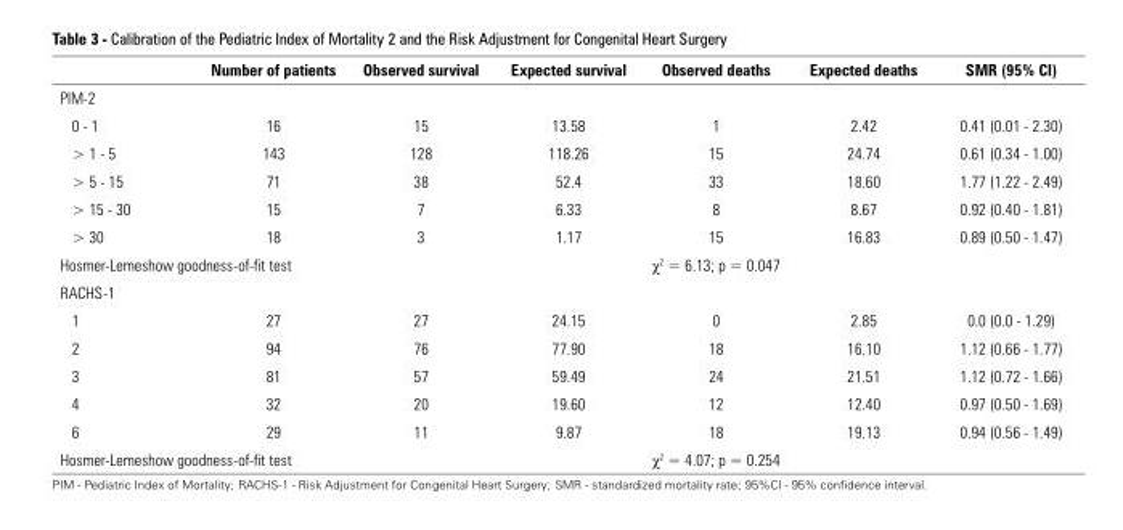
<table><thead><tr><td></td><td>Number of patients</td><td>Observed survival</td><td>Expected survival</td><td>Observed deaths</td><td>Expected deaths</td><td>SMR (95% CI)</td></tr></thead><tbody><tr><td colspan="7">PIM-2</td></tr><tr><td>0 - 1</td><td>16</td><td>15</td><td>13.58</td><td>1</td><td>2.42</td><td>0.41 (0.01 - 2.30)</td></tr><tr><td>&gt; 1 - 5</td><td>143</td><td>128</td><td>118.26</td><td>15</td><td>24.74</td><td>0.61 (0.34 - 1.00)</td></tr><tr><td>&gt; 5 - 15</td><td>71</td><td>38</td><td>52.4</td><td>33</td><td>18.60</td><td>1.77 (1.22 - 2.49)</td></tr><tr><td>&gt; 15 - 30</td><td>15</td><td>7</td><td>6.33</td><td>8</td><td>8.67</td><td>0.92 (0.40 - 1.81)</td></tr><tr><td>&gt; 30</td><td>18</td><td>3</td><td>1.17</td><td>15</td><td>16.83</td><td>0.89 (0.50 - 1.47)</td></tr><tr><td colspan="2">Hosmer-Lemeshow goodness-of-fit test</td><td></td><td></td><td>χ<sup>2</sup> = 6.13; p = 0.047</td><td></td><td></td></tr><tr><td colspan="7">RACHS-1</td></tr><tr><td>1</td><td>27</td><td>27</td><td>24.15</td><td>0</td><td>2.85</td><td>0.0 (0.0 - 1.29)</td></tr><tr><td>2</td><td>94</td><td>76</td><td>77.90</td><td>18</td><td>16.10</td><td>1.12 (0.66 - 1.77)</td></tr><tr><td>3</td><td>81</td><td>57</td><td>59.49</td><td>24</td><td>21.51</td><td>1.12 (0.72 - 1.66)</td></tr><tr><td>4</td><td>32</td><td>20</td><td>19.60</td><td>12</td><td>12.40</td><td>0.97 (0.50 - 1.69)</td></tr><tr><td>6</td><td>29</td><td>11</td><td>9.87</td><td>18</td><td>19.13</td><td>0.94 (0.56 - 1.49)</td></tr><tr><td colspan="2">Hosmer-Lemeshow goodness-of-fit test</td><td></td><td></td><td>χ<sup>2</sup> = 4.07; p = 0.254</td><td></td><td></td></tr></tbody></table>